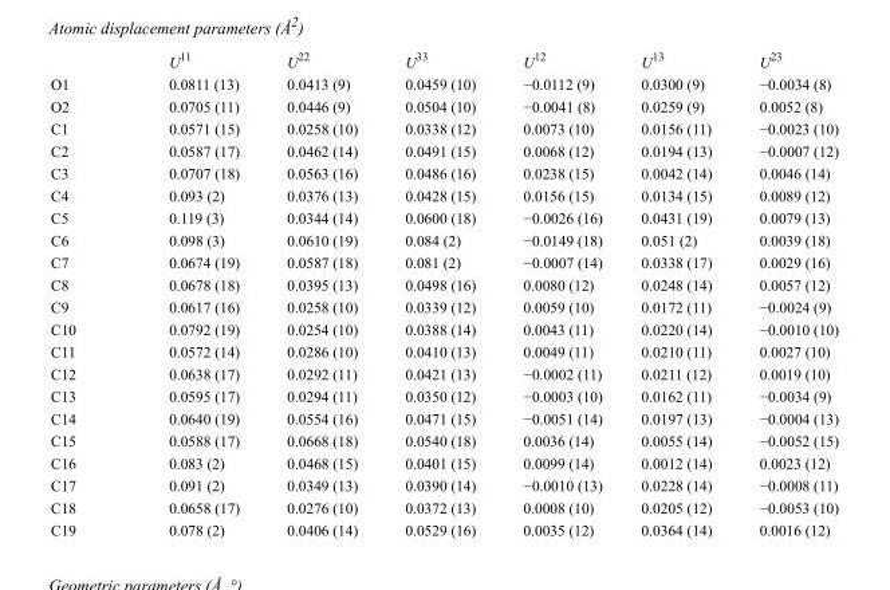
<table><thead><tr><td></td><td>U<sup>11</sup></td><td>U<sup>22</sup></td><td>U<sup>33</sup></td><td>U<sup>12</sup></td><td>U<sup>13</sup></td><td>U<sup>23</sup></td></tr></thead><tbody><tr><td>O1</td><td>0.0811 (13)</td><td>0.0413 (9)</td><td>0.0459 (10)</td><td>−0.0112 (9)</td><td>0.0300 (9)</td><td>−0.0034 (8)</td></tr><tr><td>O2</td><td>0.0705 (11)</td><td>0.0446 (9)</td><td>0.0504 (10)</td><td>−0.0041 (8)</td><td>0.0259 (9)</td><td>0.0052 (8)</td></tr><tr><td>C1</td><td>0.0571 (15)</td><td>0.0258 (10)</td><td>0.0338 (12)</td><td>0.0073 (10)</td><td>0.0156 (11)</td><td>−0.0023 (10)</td></tr><tr><td>C2</td><td>0.0587 (17)</td><td>0.0462 (14)</td><td>0.0491 (15)</td><td>0.0068 (12)</td><td>0.0194 (13)</td><td>−0.0007 (12)</td></tr><tr><td>C3</td><td>0.0707 (18)</td><td>0.0563 (16)</td><td>0.0486 (16)</td><td>0.0238 (15)</td><td>0.0042 (14)</td><td>0.0046 (14)</td></tr><tr><td>C4</td><td>0.093 (2)</td><td>0.0376 (13)</td><td>0.0428 (15)</td><td>0.0156 (15)</td><td>0.0134 (15)</td><td>0.0089 (12)</td></tr><tr><td>C5</td><td>0.119 (3)</td><td>0.0344 (14)</td><td>0.0600 (18)</td><td>−0.0026 (16)</td><td>0.0431 (19)</td><td>0.0079 (13)</td></tr><tr><td>C6</td><td>0.098 (3)</td><td>0.0610 (19)</td><td>0.084 (2)</td><td>−0.0149 (18)</td><td>0.051 (2)</td><td>0.0039 (18)</td></tr><tr><td>C7</td><td>0.0674 (19)</td><td>0.0587 (18)</td><td>0.081 (2)</td><td>−0.0007 (14)</td><td>0.0338 (17)</td><td>0.0029 (16)</td></tr><tr><td>C8</td><td>0.0678 (18)</td><td>0.0395 (13)</td><td>0.0498 (16)</td><td>0.0080 (12)</td><td>0.0248 (14)</td><td>0.0057 (12)</td></tr><tr><td>C9</td><td>0.0617 (16)</td><td>0.0258 (10)</td><td>0.0339 (12)</td><td>0.0059 (10)</td><td>0.0172 (11)</td><td>−0.0024 (9)</td></tr><tr><td>C10</td><td>0.0792 (19)</td><td>0.0254 (10)</td><td>0.0388 (14)</td><td>0.0043 (11)</td><td>0.0220 (14)</td><td>−0.0010 (10)</td></tr><tr><td>C11</td><td>0.0572 (14)</td><td>0.0286 (10)</td><td>0.0410 (13)</td><td>0.0049 (11)</td><td>0.0210 (11)</td><td>0.0027 (10)</td></tr><tr><td>C12</td><td>0.0638 (17)</td><td>0.0292 (11)</td><td>0.0421 (13)</td><td>−0.0002 (11)</td><td>0.0211 (12)</td><td>0.0019 (10)</td></tr><tr><td>C13</td><td>0.0595 (17)</td><td>0.0294 (11)</td><td>0.0350 (12)</td><td>−0.0003 (10)</td><td>0.0162 (11)</td><td>−0.0034 (9)</td></tr><tr><td>C14</td><td>0.0640 (19)</td><td>0.0554 (16)</td><td>0.0471 (15)</td><td>−0.0051 (14)</td><td>0.0197 (13)</td><td>−0.0004 (13)</td></tr><tr><td>C15</td><td>0.0588 (17)</td><td>0.0668 (18)</td><td>0.0540 (18)</td><td>0.0036 (14)</td><td>0.0055 (14)</td><td>−0.0052 (15)</td></tr><tr><td>C16</td><td>0.083 (2)</td><td>0.0468 (15)</td><td>0.0401 (15)</td><td>0.0099 (14)</td><td>0.0012 (14)</td><td>0.0023 (12)</td></tr><tr><td>C17</td><td>0.091 (2)</td><td>0.0349 (13)</td><td>0.0390 (14)</td><td>−0.0010 (13)</td><td>0.0228 (14)</td><td>−0.0008 (11)</td></tr><tr><td>C18</td><td>0.0658 (17)</td><td>0.0276 (10)</td><td>0.0372 (13)</td><td>0.0008 (10)</td><td>0.0205 (12)</td><td>−0.0053 (10)</td></tr><tr><td>C19</td><td>0.078 (2)</td><td>0.0406 (14)</td><td>0.0529 (16)</td><td>0.0035 (12)</td><td>0.0364 (14)</td><td>0.0016 (12)</td></tr></tbody></table>